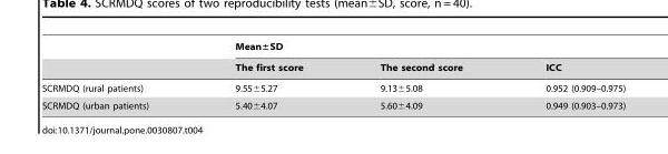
<table><thead><tr><td rowspan="2"></td><td colspan="3">Mean±SD</td></tr><tr><td>The first score</td><td>The second score</td><td>ICC</td></tr></thead><tbody><tr><td>SCRMDQ (rural patients)</td><td>9.55±5.27</td><td>9.13±5.08</td><td>0.952 (0.909–0.975)</td></tr><tr><td>SCRMDQ (urban patients)</td><td>5.40±4.07</td><td>5.60±4.09</td><td>0.949 (0.903–0.973)</td></tr></tbody></table>